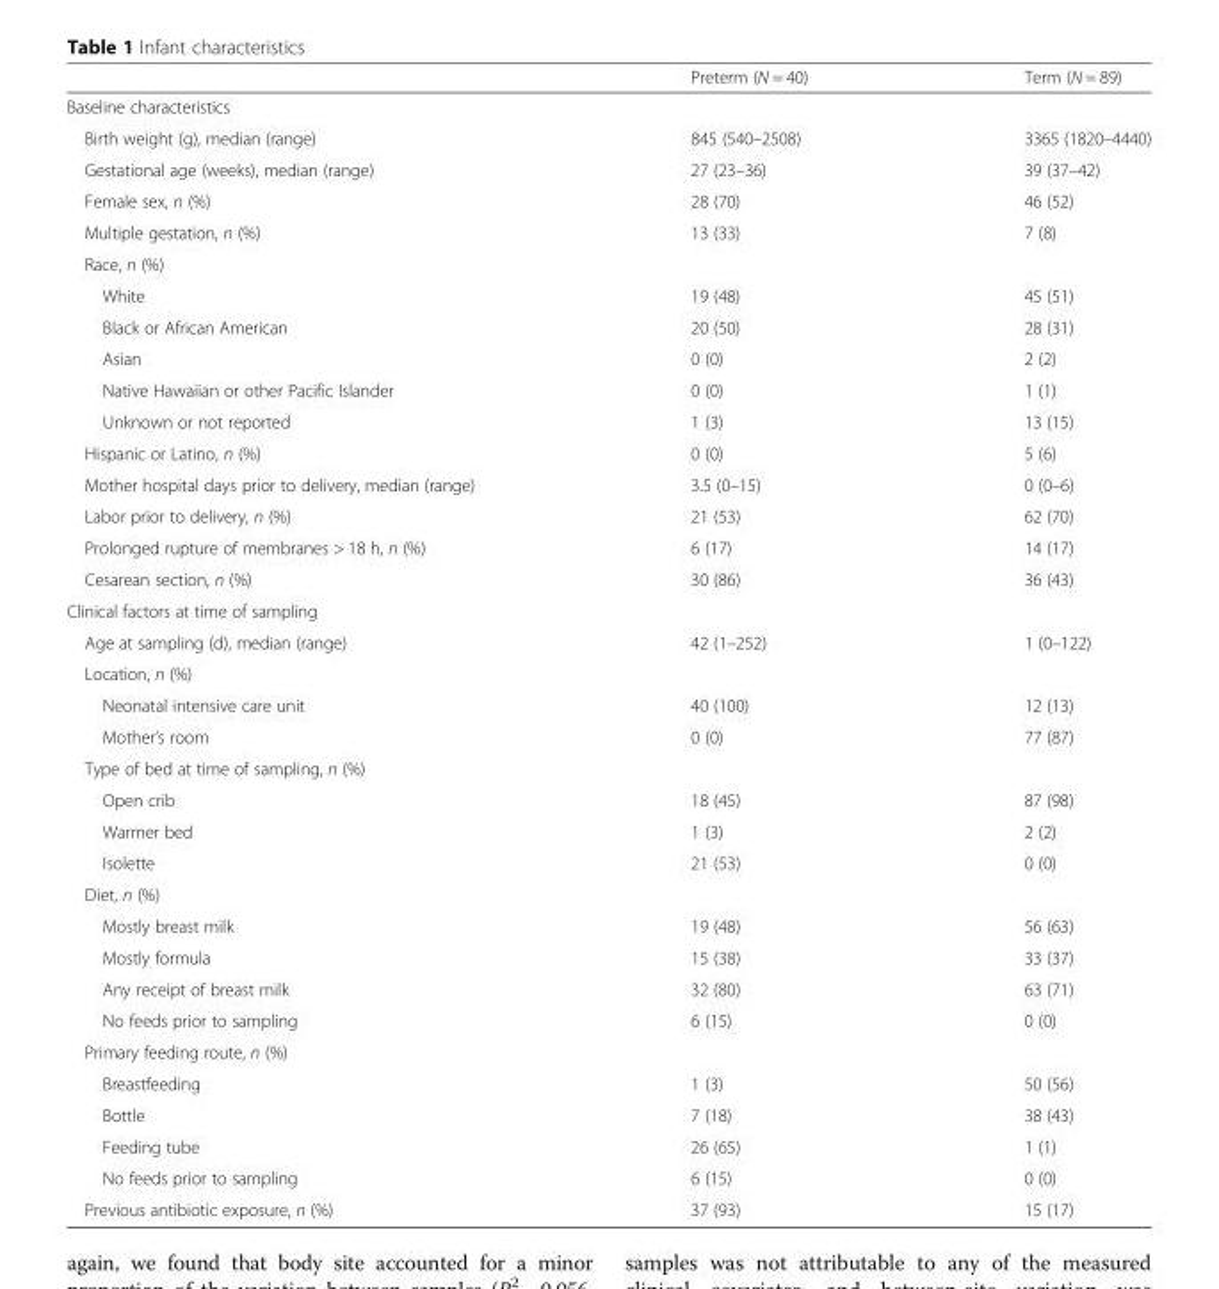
<table><thead><tr><td></td><td>Preterm (N = 40)</td><td>Term (N = 89)</td></tr></thead><tbody><tr><td colspan="3">Baseline characteristics</td></tr><tr><td>Birth weight (g), median (range)</td><td>845 (540–2508)</td><td>3365 (1820–4440)</td></tr><tr><td>Gestational age (weeks), median (range)</td><td>27 (23–36)</td><td>39 (37–42)</td></tr><tr><td>Female sex, n (%)</td><td>28 (70)</td><td>46 (52)</td></tr><tr><td>Multiple gestation, n (%)</td><td>13 (33)</td><td>7 (8)</td></tr><tr><td colspan="3">Race, n (%)</td></tr><tr><td>White</td><td>19 (48)</td><td>45 (51)</td></tr><tr><td>Black or African American</td><td>20 (50)</td><td>28 (31)</td></tr><tr><td>Asian</td><td>0 (0)</td><td>2 (2)</td></tr><tr><td>Native Hawaiian or other Pacific Islander</td><td>0 (0)</td><td>1 (1)</td></tr><tr><td>Unknown or not reported</td><td>1 (3)</td><td>13 (15)</td></tr><tr><td>Hispanic or Latino, n (%)</td><td>0 (0)</td><td>5 (6)</td></tr><tr><td>Mother hospital days prior to delivery, median (range)</td><td>3.5 (0–15)</td><td>0 (0–6)</td></tr><tr><td>Labor prior to delivery, n (%)</td><td>21 (53)</td><td>62 (70)</td></tr><tr><td>Prolonged rupture of membranes &gt; 18 h, n (%)</td><td>6 (17)</td><td>14 (17)</td></tr><tr><td>Cesarean section, n (%)</td><td>30 (86)</td><td>36 (43)</td></tr><tr><td colspan="3">Clinical factors at time of sampling</td></tr><tr><td>Age at sampling (d), median (range)</td><td>42 (1–252)</td><td>1 (0–122)</td></tr><tr><td colspan="3">Location, n (%)</td></tr><tr><td>Neonatal intensive care unit</td><td>40 (100)</td><td>12 (13)</td></tr><tr><td>Mother’s room</td><td>0 (0)</td><td>77 (87)</td></tr><tr><td colspan="3">Type of bed at time of sampling, n (%)</td></tr><tr><td>Open crib</td><td>18 (45)</td><td>87 (98)</td></tr><tr><td>Warmer bed</td><td>1 (3)</td><td>2 (2)</td></tr><tr><td>Isolette</td><td>21 (53)</td><td>0 (0)</td></tr><tr><td colspan="3">Diet, n (%)</td></tr><tr><td>Mostly breast milk</td><td>19 (48)</td><td>56 (63)</td></tr><tr><td>Mostly formula</td><td>15 (38)</td><td>33 (37)</td></tr><tr><td>Any receipt of breast milk</td><td>32 (80)</td><td>63 (71)</td></tr><tr><td>No feeds prior to sampling</td><td>6 (15)</td><td>0 (0)</td></tr><tr><td colspan="3">Primary feeding route, n (%)</td></tr><tr><td>Breastfeeding</td><td>1 (3)</td><td>50 (56)</td></tr><tr><td>Bottle</td><td>7 (18)</td><td>38 (43)</td></tr><tr><td>Feeding tube</td><td>26 (65)</td><td>1 (1)</td></tr><tr><td>No feeds prior to sampling</td><td>6 (15)</td><td>0 (0)</td></tr><tr><td>Previous antibiotic exposure, n (%)</td><td>37 (93)</td><td>15 (17)</td></tr></tbody></table>